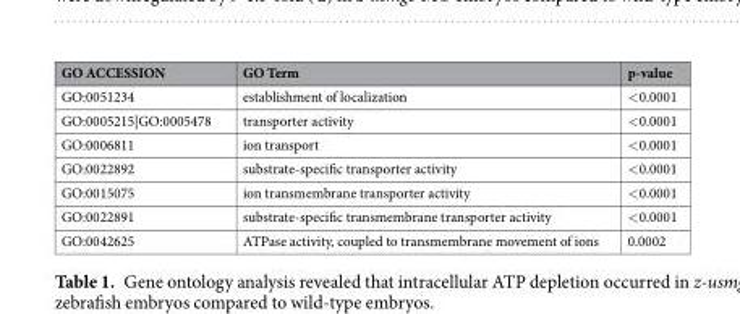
<table><thead><tr><td>GO ACCESSION</td><td>GO Term</td><td>p-value</td></tr></thead><tbody><tr><td>GO:0051234</td><td>establishment of localization</td><td>&lt;0.0001</td></tr><tr><td>GO:0005215|GO:0005478</td><td>transporter activity</td><td>&lt;0.0001</td></tr><tr><td>GO:0006811</td><td>ion transport</td><td>&lt;0.0001</td></tr><tr><td>GO:0022892</td><td>substrate-specific transporter activity</td><td>&lt;0.0001</td></tr><tr><td>GO:0015075</td><td>ion transmembrane transporter activity</td><td>&lt;0.0001</td></tr><tr><td>GO:0022891</td><td>substrate-specific transmembrane transporter activity</td><td>&lt;0.0001</td></tr><tr><td>GO:0042625</td><td>ATPase activity, coupled to transmembrane movement of ions</td><td>0.0002</td></tr></tbody></table>